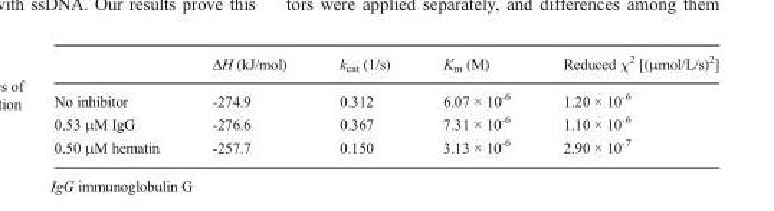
<table><thead><tr><td></td><td>ΔH (kJ/mol)</td><td>k<sub>cat</sub> (1/s)</td><td>K<sub>m</sub> (M)</td><td>Reduced χ<sup>2</sup> [(μmol/L/s)<sup>2</sup>]</td></tr></thead><tbody><tr><td>No inhibitor</td><td>-274.9</td><td>0.312</td><td>6.07 × 10<sup>-6</sup></td><td>1.20 × 10<sup>-6</sup></td></tr><tr><td>0.53 μM IgG</td><td>-276.6</td><td>0.367</td><td>7.31 × 10<sup>-6</sup></td><td>1.10 × 10<sup>-6</sup></td></tr><tr><td>0.50 μM hematin</td><td>-257.7</td><td>0.150</td><td>3.13 × 10<sup>-6</sup></td><td>2.90 × 10<sup>-7</sup></td></tr></tbody></table>